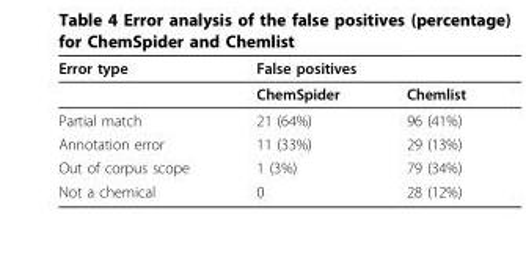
<table><thead><tr><td rowspan="2">Error type</td><td colspan="2">False positives</td></tr><tr><td>ChemSpider</td><td>Chemlist</td></tr></thead><tbody><tr><td>Partial match</td><td>21 (64%)</td><td>96 (41%)</td></tr><tr><td>Annotation error</td><td>11 (33%)</td><td>29 (13%)</td></tr><tr><td>Out of corpus scope</td><td>1 (3%)</td><td>79 (34%)</td></tr><tr><td>Not a chemical</td><td>0</td><td>28 (12%)</td></tr></tbody></table>